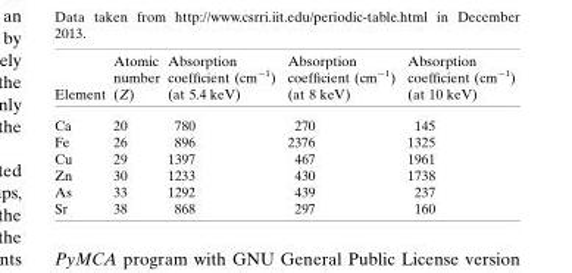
<table><thead><tr><td>Element</td><td>Atomic number (Z)</td><td>Absorption coefficient (cm�1) (at 5.4 keV)</td><td>Absorption coefficient (cm�1) (at 8 keV)</td><td>Absorption coefficient (cm�1) (at 10 keV)</td></tr></thead><tbody><tr><td>Ca</td><td>20</td><td>780</td><td>270</td><td>145</td></tr><tr><td>Fe</td><td>26</td><td>896</td><td>2376</td><td>1325</td></tr><tr><td>Cu</td><td>29</td><td>1397</td><td>467</td><td>1961</td></tr><tr><td>Zn</td><td>30</td><td>1233</td><td>430</td><td>1738</td></tr><tr><td>As</td><td>33</td><td>1292</td><td>439</td><td>237</td></tr><tr><td>Sr</td><td>38</td><td>868</td><td>297</td><td>160</td></tr></tbody></table>